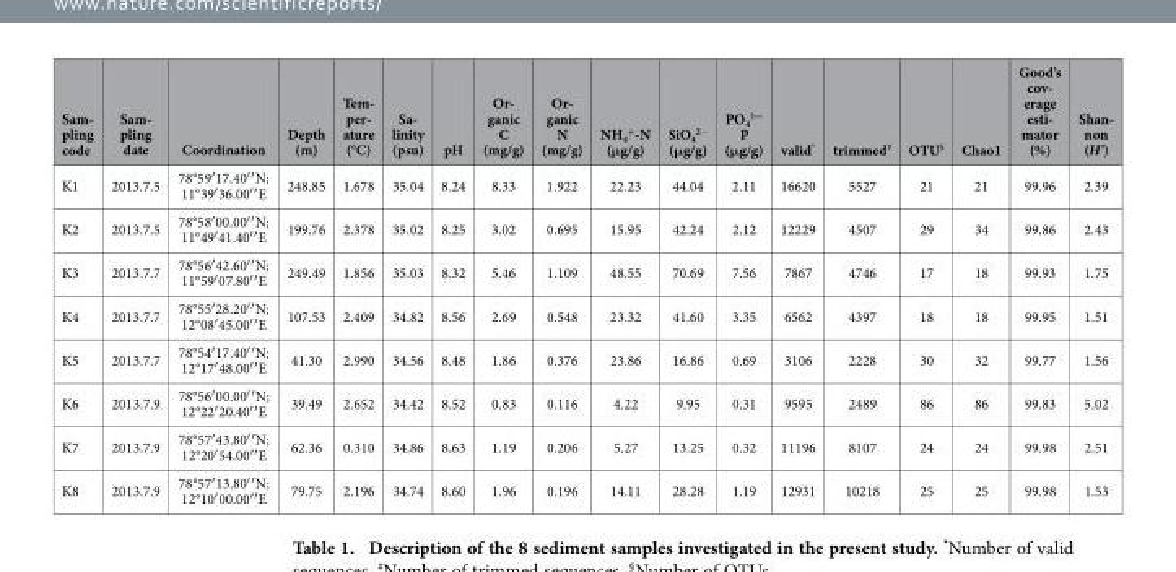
<table><thead><tr><td>Sam- pling code</td><td>Sam- pling date</td><td>Coordination</td><td>Depth (m)</td><td>Tem- per- ature (°C)</td><td>Sa- linity (psu)</td><td>pH</td><td>Or- ganic C (mg/g)</td><td>Or- ganic N (mg/g)</td><td>NH<sub>4</sub> <sup>+</sup>-N (μg/g)</td><td>SiO<sub>4</sub> <sup>2−</sup> (μg/g)</td><td>PO<sub>4</sub> <sup>3—</sup> P (μg/g)</td><td>valid*</td><td>trimmed#</td><td>OTU§</td><td>Chao1</td><td>Good’s cov- erage esti- mator (%)</td><td>Shan- non (H’)</td></tr></thead><tbody><tr><td>K1</td><td>2013.7.5</td><td>78°59′ 17.40′ ′ N; 11°39′ 36.00′ ′ E</td><td>248.85</td><td>1.678</td><td>35.04</td><td>8.24</td><td>8.33</td><td>1.922</td><td>22.23</td><td>44.04</td><td>2.11</td><td>16620</td><td>5527</td><td>21</td><td>21</td><td>99.96</td><td>2.39</td></tr><tr><td>K2</td><td>2013.7.5</td><td>78°58′ 00.00′ ′ N; 11°49′ 41.40′ ′ E</td><td>199.76</td><td>2.378</td><td>35.02</td><td>8.25</td><td>3.02</td><td>0.695</td><td>15.95</td><td>42.24</td><td>2.12</td><td>12229</td><td>4507</td><td>29</td><td>34</td><td>99.86</td><td>2.43</td></tr><tr><td>K3</td><td>2013.7.7</td><td>78°56′ 42.60′ ′ N; 11°59′ 07.80′ ′ E</td><td>249.49</td><td>1.856</td><td>35.03</td><td>8.32</td><td>5.46</td><td>1.109</td><td>48.55</td><td>70.69</td><td>7.56</td><td>7867</td><td>4746</td><td>17</td><td>18</td><td>99.93</td><td>1.75</td></tr><tr><td>K4</td><td>2013.7.7</td><td>78°55′ 28.20′ ′ N; 12°08′ 45.00′ ′ E</td><td>107.53</td><td>2.409</td><td>34.82</td><td>8.56</td><td>2.69</td><td>0.548</td><td>23.32</td><td>41.60</td><td>3.35</td><td>6562</td><td>4397</td><td>18</td><td>18</td><td>99.95</td><td>1.51</td></tr><tr><td>K5</td><td>2013.7.7</td><td>78°54′ 17.40′ ′ N; 12°17′ 48.00′ ′ E</td><td>41.30</td><td>2.990</td><td>34.56</td><td>8.48</td><td>1.86</td><td>0.376</td><td>23.86</td><td>16.86</td><td>0.69</td><td>3106</td><td>2228</td><td>30</td><td>32</td><td>99.77</td><td>1.56</td></tr><tr><td>K6</td><td>2013.7.9</td><td>78°56′ 00.00′ ′ N; 12°22′ 20.40′ ′ E</td><td>39.49</td><td>2.652</td><td>34.42</td><td>8.52</td><td>0.83</td><td>0.116</td><td>4.22</td><td>9.95</td><td>0.31</td><td>9595</td><td>2489</td><td>86</td><td>86</td><td>99.83</td><td>5.02</td></tr><tr><td>K7</td><td>2013.7.9</td><td>78°57′ 43.80′ ′ N; 12°20′ 54.00′ ′ E</td><td>62.36</td><td>0.310</td><td>34.86</td><td>8.63</td><td>1.19</td><td>0.206</td><td>5.27</td><td>13.25</td><td>0.32</td><td>11196</td><td>8107</td><td>24</td><td>24</td><td>99.98</td><td>2.51</td></tr><tr><td>K8</td><td>2013.7.9</td><td>78°57′ 13.80′ ′ N; 12°10′ 00.00′ ′ E</td><td>79.75</td><td>2.196</td><td>34.74</td><td>8.60</td><td>1.96</td><td>0.196</td><td>14.11</td><td>28.28</td><td>1.19</td><td>12931</td><td>10218</td><td>25</td><td>25</td><td>99.98</td><td>1.53</td></tr></tbody></table>